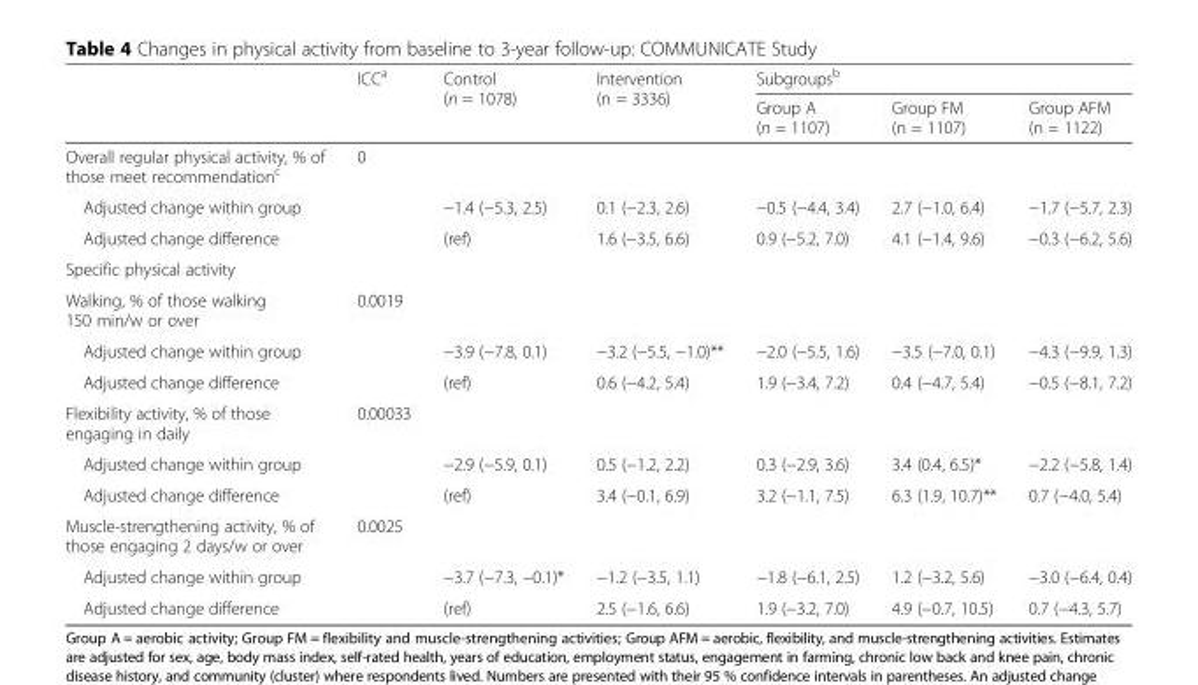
<table><thead><tr><td rowspan="2"></td><td rowspan="2">ICC<sup>a</sup></td><td rowspan="2">Control (n = 1078)</td><td rowspan="2">Intervention (n = 3336)</td><td colspan="3">Subgroups<sup>b</sup></td></tr><tr><td>Group A (n = 1107)</td><td>Group FM (n = 1107)</td><td>Group AFM (n = 1122)</td></tr></thead><tbody><tr><td>Overall regular physical activity, % of those meet recommendation<sup>c</sup></td><td>0</td><td></td><td></td><td></td><td></td><td></td></tr><tr><td>Adjusted change within group</td><td></td><td>−1.4 (−5.3, 2.5)</td><td>0.1 (−2.3, 2.6)</td><td>−0.5 (−4.4, 3.4)</td><td>2.7 (−1.0, 6.4)</td><td>−1.7 (−5.7, 2.3)</td></tr><tr><td>Adjusted change difference</td><td></td><td>(ref)</td><td>1.6 (−3.5, 6.6)</td><td>0.9 (−5.2, 7.0)</td><td>4.1 (−1.4, 9.6)</td><td>−0.3 (−6.2, 5.6)</td></tr><tr><td colspan="7">Specific physical activity</td></tr><tr><td>Walking, % of those walking 150 min/w or over</td><td>0.0019</td><td></td><td></td><td></td><td></td><td></td></tr><tr><td>Adjusted change within group</td><td></td><td>−3.9 (−7.8, 0.1)</td><td>−3.2 (−5.5, −1.0)**</td><td>−2.0 (−5.5, 1.6)</td><td>−3.5 (−7.0, 0.1)</td><td>−4.3 (−9.9, 1.3)</td></tr><tr><td>Adjusted change difference</td><td></td><td>(ref)</td><td>0.6 (−4.2, 5.4)</td><td>1.9 (−3.4, 7.2)</td><td>0.4 (−4.7, 5.4)</td><td>−0.5 (−8.1, 7.2)</td></tr><tr><td>Flexibility activity, % of those engaging in daily</td><td>0.00033</td><td></td><td></td><td></td><td></td><td></td></tr><tr><td>Adjusted change within group</td><td></td><td>−2.9 (−5.9, 0.1)</td><td>0.5 (−1.2, 2.2)</td><td>0.3 (−2.9, 3.6)</td><td>3.4 (0.4, 6.5)*</td><td>−2.2 (−5.8, 1.4)</td></tr><tr><td>Adjusted change difference</td><td></td><td>(ref)</td><td>3.4 (−0.1, 6.9)</td><td>3.2 (−1.1, 7.5)</td><td>6.3 (1.9, 10.7)**</td><td>0.7 (−4.0, 5.4)</td></tr><tr><td>Muscle-strengthening activity, % of those engaging 2 days/w or over</td><td>0.0025</td><td></td><td></td><td></td><td></td><td></td></tr><tr><td>Adjusted change within group</td><td></td><td>−3.7 (−7.3, −0.1)*</td><td>−1.2 (−3.5, 1.1)</td><td>−1.8 (−6.1, 2.5)</td><td>1.2 (−3.2, 5.6)</td><td>−3.0 (−6.4, 0.4)</td></tr><tr><td>Adjusted change difference</td><td></td><td>(ref)</td><td>2.5 (−1.6, 6.6)</td><td>1.9 (−3.2, 7.0)</td><td>4.9 (−0.7, 10.5)</td><td>0.7 (−4.3, 5.7)</td></tr></tbody></table>